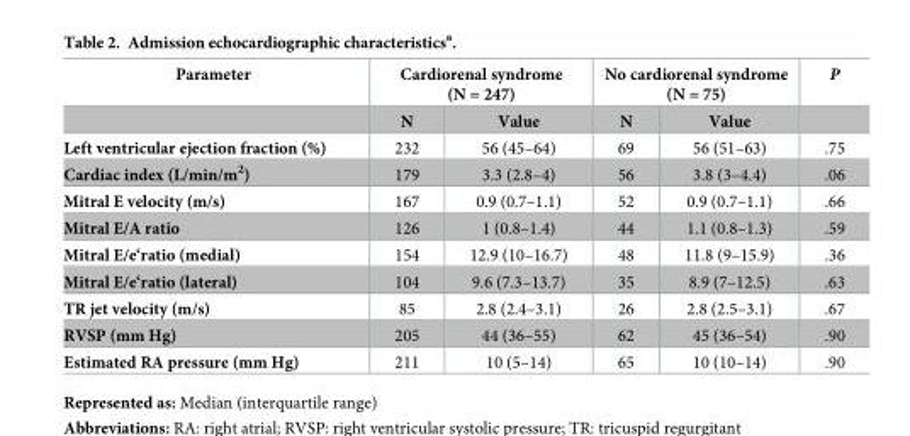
<table><thead><tr><td rowspan="2">Parameter</td><td colspan="2">Cardiorenal syndrome (N = 247)</td><td colspan="2">No cardiorenal syndrome (N = 75)</td><td rowspan="2">P</td></tr><tr><td>N</td><td>Value</td><td>N</td><td>Value</td></tr></thead><tbody><tr><td>Left ventricular ejection fraction (%)</td><td>232</td><td>56 (45–64)</td><td>69</td><td>56 (51–63)</td><td>.75</td></tr><tr><td>Cardiac index (L/min/m<sup>2</sup>)</td><td>179</td><td>3.3 (2.8–4)</td><td>56</td><td>3.8 (3–4.4)</td><td>.06</td></tr><tr><td>Mitral E velocity (m/s)</td><td>167</td><td>0.9 (0.7–1.1)</td><td>52</td><td>0.9 (0.7–1.1)</td><td>.66</td></tr><tr><td>Mitral E/A ratio</td><td>126</td><td>1 (0.8–1.4)</td><td>44</td><td>1.1 (0.8–1.3)</td><td>.59</td></tr><tr><td>Mitral E/e‘ratio (medial)</td><td>154</td><td>12.9 (10–16.7)</td><td>48</td><td>11.8 (9–15.9)</td><td>.36</td></tr><tr><td>Mitral E/e‘ratio (lateral)</td><td>104</td><td>9.6 (7.3–13.7)</td><td>35</td><td>8.9 (7–12.5)</td><td>.63</td></tr><tr><td>TR jet velocity (m/s)</td><td>85</td><td>2.8 (2.4–3.1)</td><td>26</td><td>2.8 (2.5–3.1)</td><td>.67</td></tr><tr><td>RVSP (mm Hg)</td><td>205</td><td>44 (36–55)</td><td>62</td><td>45 (36–54)</td><td>.90</td></tr><tr><td>Estimated RA pressure (mm Hg)</td><td>211</td><td>10 (5–14)</td><td>65</td><td>10 (10–14)</td><td>.90</td></tr></tbody></table>